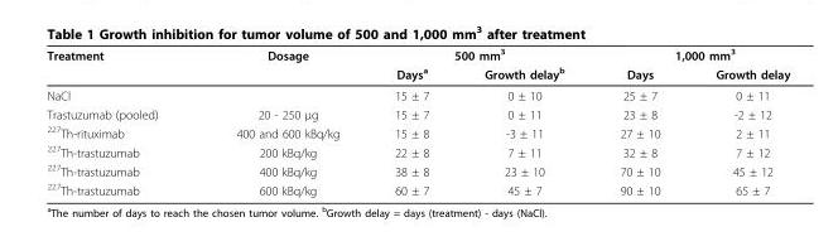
<table><thead><tr><td rowspan="2">Treatment</td><td rowspan="2">Dosage</td><td colspan="2">500 mm<sup>3</sup></td><td colspan="2">1,000 mm<sup>3</sup></td></tr><tr><td>Days<sup>a</sup></td><td>Growth delay<sup>b</sup></td><td>Days</td><td>Growth delay</td></tr></thead><tbody><tr><td>NaCl</td><td></td><td>15 ± 7</td><td>0 ± 10</td><td>25 ± 7</td><td>0 ± 11</td></tr><tr><td>Trastuzumab (pooled)</td><td>20 - 250 μg</td><td>15 ± 7</td><td>0 ± 11</td><td>23 ± 8</td><td>-2 ± 12</td></tr><tr><td><sup>227</sup>Th-rituximab</td><td>400 and 600 kBq/kg</td><td>15 ± 8</td><td>-3 ± 11</td><td>27 ± 10</td><td>2 ± 11</td></tr><tr><td><sup>227</sup>Th-trastuzumab</td><td>200 kBq/kg</td><td>22 ± 8</td><td>7 ± 11</td><td>32 ± 8</td><td>7 ± 12</td></tr><tr><td><sup>227</sup>Th-trastuzumab</td><td>400 kBq/kg</td><td>38 ± 8</td><td>23 ± 10</td><td>70 ± 10</td><td>45 ± 12</td></tr><tr><td><sup>227</sup>Th-trastuzumab</td><td>600 kBq/kg</td><td>60 ± 7</td><td>45 ± 7</td><td>90 ± 10</td><td>65 ± 7</td></tr></tbody></table>